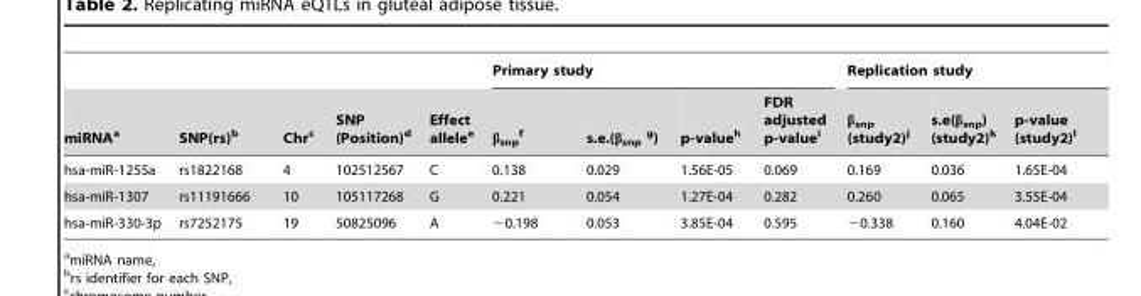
<table><thead><tr><td rowspan="2">miRNA<sup>a</sup></td><td rowspan="2">SNP(rs)<sup>b</sup></td><td rowspan="2">Chr<sup>c</sup></td><td rowspan="2">SNP (Position)<sup>d</sup></td><td rowspan="2">Effect allele<sup>e</sup></td><td colspan="4">Primary study</td><td colspan="3">Replication study</td></tr><tr><td>β<sub>snp</sub> f</td><td>s.e.(β<sub>snp</sub> g)</td><td>p-value<sup>h</sup></td><td>FDR adjusted p-value<sup>i</sup></td><td>β<sub>snp</sub> (study2)<sup>j</sup></td><td>s.e(β<sub>snp</sub>) (study2)<sup>k</sup></td><td>p-value (study2)<sup>l</sup></td></tr></thead><tbody><tr><td>hsa-miR-1255a</td><td>rs1822168</td><td>4</td><td>102512567</td><td>C</td><td>0.138</td><td>0.029</td><td>1.56E-05</td><td>0.069</td><td>0.169</td><td>0.036</td><td>1.65E-04</td></tr><tr><td>hsa-miR-1307</td><td>rs11191666</td><td>10</td><td>105117268</td><td>G</td><td>0.221</td><td>0.054</td><td>1.27E-04</td><td>0.282</td><td>0.260</td><td>0.065</td><td>3.55E-04</td></tr><tr><td>hsa-miR-330-3p</td><td>rs7252175</td><td>19</td><td>50825096</td><td>A</td><td>−0.198</td><td>0.053</td><td>3.85E-04</td><td>0.595</td><td>−0.338</td><td>0.160</td><td>4.04E-02</td></tr></tbody></table>